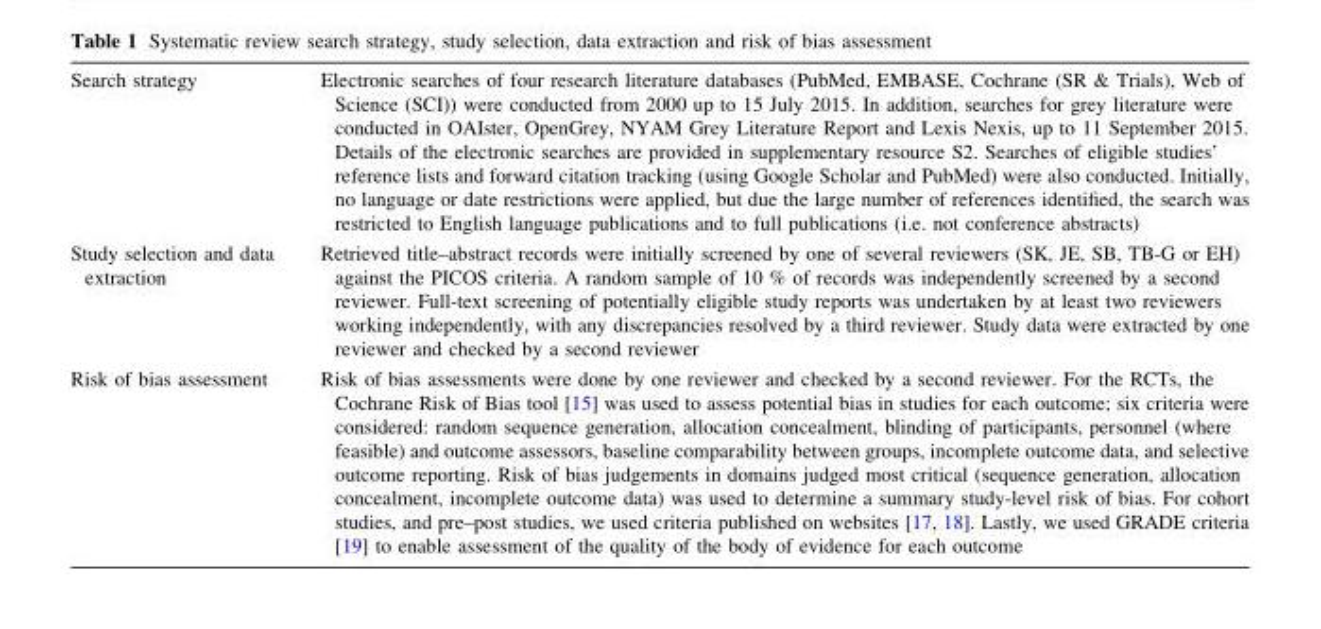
<table><tbody><tr><td>Search strategy</td><td>Electronic searches of four research literature databases (PubMed, EMBASE, Cochrane (SR &amp; Trials), Web of Science (SCI)) were conducted from 2000 up to 15 July 2015. In addition, searches for grey literature were conducted in OAIster, OpenGrey, NYAM Grey Literature Report and Lexis Nexis, up to 11 September 2015. Details of the electronic searches are provided in supplementary resource S2. Searches of eligible studies’ reference lists and forward citation tracking (using Google Scholar and PubMed) were also conducted. Initially, no language or date restrictions were applied, but due the large number of references identified, the search was restricted to English language publications and to full publications (i.e. not conference abstracts)</td></tr><tr><td>Study selection and data extraction</td><td>Retrieved title–abstract records were initially screened by one of several reviewers (SK, JE, SB, TB-G or EH) against the PICOS criteria. A random sample of 10 % of records was independently screened by a second reviewer. Full-text screening of potentially eligible study reports was undertaken by at least two reviewers working independently, with any discrepancies resolved by a third reviewer. Study data were extracted by one reviewer and checked by a second reviewer</td></tr><tr><td>Risk of bias assessment</td><td>Risk of bias assessments were done by one reviewer and checked by a second reviewer. For the RCTs, the Cochrane Risk of Bias tool [15] was used to assess potential bias in studies for each outcome; six criteria were considered: random sequence generation, allocation concealment, blinding of participants, personnel (where feasible) and outcome assessors, baseline comparability between groups, incomplete outcome data, and selective outcome reporting. Risk of bias judgements in domains judged most critical (sequence generation, allocation concealment, incomplete outcome data) was used to determine a summary study-level risk of bias. For cohort studies, and pre–post studies, we used criteria published on websites [17, 18]. Lastly, we used GRADE criteria [19] to enable assessment of the quality of the body of evidence for each outcome</td></tr></tbody></table>